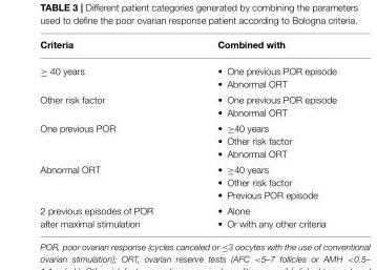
<table><thead><tr><td>Criteria</td><td>Combined with</td></tr></thead><tbody><tr><td>≥ 40 years</td><td>• One previous POR episode • Abnormal ORT</td></tr><tr><td>Other risk factor</td><td>• One previous POR episode • Abnormal ORT</td></tr><tr><td>One previous POR</td><td>• ≥40 years • Other risk factor • Abnormal ORT</td></tr><tr><td>Abnormal ORT</td><td>• ≥40 years • Other risk factor • Previous POR episode</td></tr><tr><td>2 previous episodes of POR after maximal stimulation</td><td>• Alone • Or with any other criteria</td></tr></tbody></table>